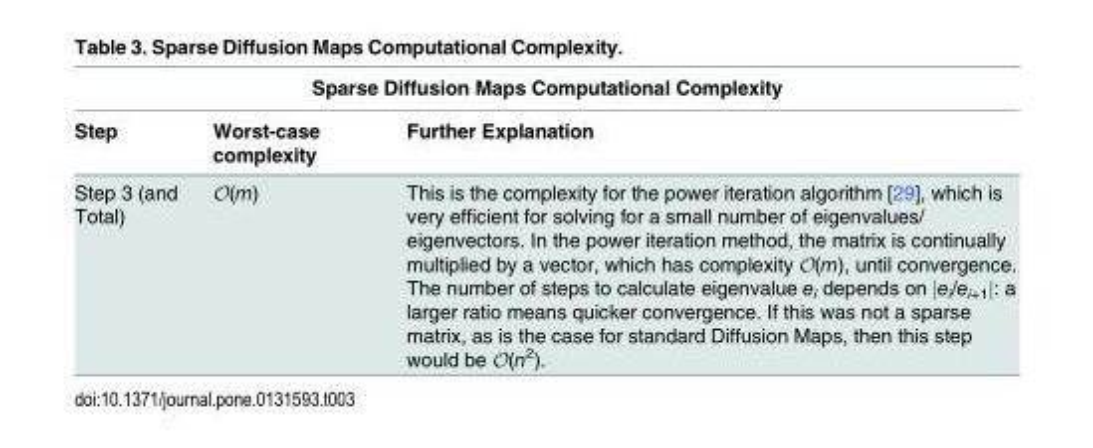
<table><thead><tr><td colspan="3">Sparse Diffusion Maps Computational Complexity</td></tr><tr><td>Step</td><td>Worst-case complexity</td><td>Further Explanation</td></tr></thead><tbody><tr><td>Step 3 (and Total)</td><td>O(m)</td><td>This is the complexity for the power iteration algorithm [29], which is very efficient for solving for a small number of eigenvalues/ eigenvectors. In the power iteration method, the matrix is continually multiplied by a vector, which has complexity O(m), until convergence. The number of steps to calculate eigenvalue e<sub>i</sub> depends on ∣e<sub>i</sub>/e<sub>i+1</sub>∣: a larger ratio means quicker convergence. If this was not a sparse matrix, as is the case for standard Diffusion Maps, then this step would be O(n<sup>2</sup>).</td></tr></tbody></table>